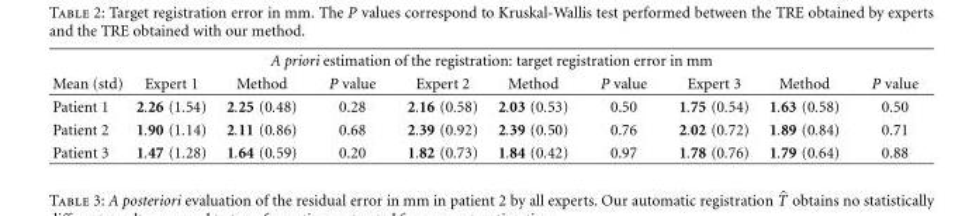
<table><thead><tr><td colspan="10">A priori estimation of the registration: target registration error in mm</td></tr><tr><td>Mean (std)</td><td>Expert 1</td><td>Method</td><td>P value</td><td>Expert 2</td><td>Method</td><td>P value</td><td>Expert 3</td><td>Method</td><td>P value</td></tr></thead><tbody><tr><td>Patient 1</td><td>2.26 (1.54)</td><td>2.25 (0.48)</td><td>0.28</td><td>2.16 (0.58)</td><td>2.03 (0.53)</td><td>0.50</td><td>1.75 (0.54)</td><td>1.63 (0.58)</td><td>0.50</td></tr><tr><td>Patient 2</td><td>1.90 (1.14)</td><td>2.11 (0.86)</td><td>0.68</td><td>2.39 (0.92)</td><td>2.39 (0.50)</td><td>0.76</td><td>2.02 (0.72)</td><td>1.89 (0.84)</td><td>0.71</td></tr><tr><td>Patient 3</td><td>1.47 (1.28)</td><td>1.64 (0.59)</td><td>0.20</td><td>1.82 (0.73)</td><td>1.84 (0.42)</td><td>0.97</td><td>1.78 (0.76)</td><td>1.79 (0.64)</td><td>0.88</td></tr></tbody></table>